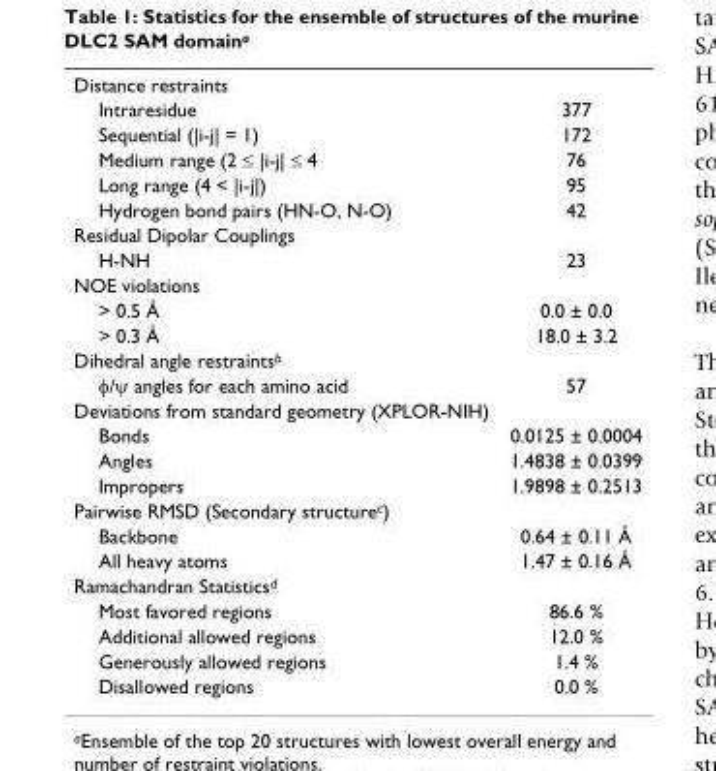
<table><tbody><tr><td colspan="2">Distance restraints</td></tr><tr><td>Intraresidue</td><td>377</td></tr><tr><td>Sequential (|i-j| = 1)</td><td>172</td></tr><tr><td>Medium range (2 ≤ |i-j| ≤ 4</td><td>76</td></tr><tr><td>Long range (4 &lt; |i-j|)</td><td>95</td></tr><tr><td>Hydrogen bond pairs (HN-O, N-O)</td><td>42</td></tr><tr><td colspan="2">Residual Dipolar Couplings</td></tr><tr><td>H-NH</td><td>23</td></tr><tr><td colspan="2">NOE violations</td></tr><tr><td>&gt; 0.5 Å</td><td>0.0 ± 0.0</td></tr><tr><td>&gt; 0.3 Å</td><td>18.0 ± 3.2</td></tr><tr><td colspan="2">Dihedral angle restraints<sup>b</sup></td></tr><tr><td>φ/ψ angles for each amino acid</td><td>57</td></tr><tr><td colspan="2">Deviations from standard geometry (XPLOR-NIH)</td></tr><tr><td>Bonds</td><td>0.0125 ± 0.0004</td></tr><tr><td>Angles</td><td>1.4838 ± 0.0399</td></tr><tr><td>Impropers</td><td>1.9898 ± 0.2513</td></tr><tr><td colspan="2">Pairwise RMSD (Secondary structure<sup>c</sup>)</td></tr><tr><td>Backbone</td><td>0.64 ± 0.11 Å</td></tr><tr><td>All heavy atoms</td><td>1.47 ± 0.16 Å</td></tr><tr><td colspan="2">Ramachandran Statistics<sup>d</sup></td></tr><tr><td>Most favored regions</td><td>86.6 %</td></tr><tr><td>Additional allowed regions</td><td>12.0 %</td></tr><tr><td>Generously allowed regions</td><td>1.4 %</td></tr><tr><td>Disallowed regions</td><td>0.0 %</td></tr></tbody></table>